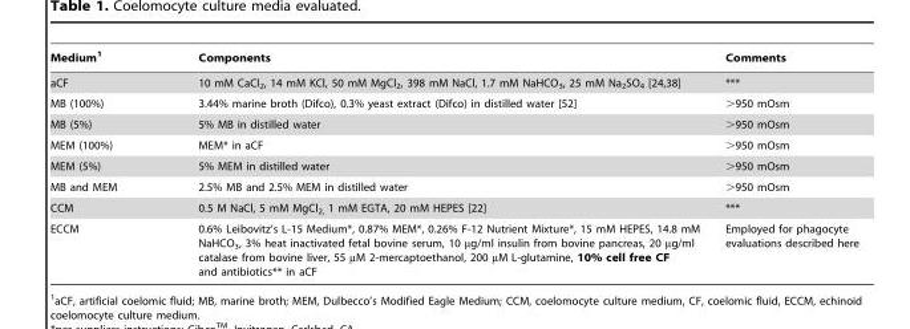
<table><thead><tr><td>Medium<sup>1</sup></td><td>Components</td><td>Comments</td></tr></thead><tbody><tr><td>aCF</td><td>10 mM CaCl2, 14 mM KCl, 50 mM MgCl2, 398 mM NaCl, 1.7 mM NaHCO3, 25 mM Na2SO4 [24,38]</td><td>***</td></tr><tr><td>MB (100%)</td><td>3.44% marine broth (Difco), 0.3% yeast extract (Difco) in distilled water [52]</td><td>&gt;950 mOsm</td></tr><tr><td>MB (5%)</td><td>5% MB in distilled water</td><td>&gt;950 mOsm</td></tr><tr><td>MEM (100%)</td><td>MEM* in aCF</td><td>&gt;950 mOsm</td></tr><tr><td>MEM (5%)</td><td>5% MEM in distilled water</td><td>&gt;950 mOsm</td></tr><tr><td>MB and MEM</td><td>2.5% MB and 2.5% MEM in distilled water</td><td>&gt;950 mOsm</td></tr><tr><td>CCM</td><td>0.5 M NaCl, 5 mM MgCl<sub>2,</sub> 1 mM EGTA, 20 mM HEPES [22]</td><td>***</td></tr><tr><td>ECCM</td><td>0.6% Leibovitz’s L-15 Medium*, 0.87% MEM*, 0.26% F-12 Nutrient Mixture*, 15 mM HEPES, 14.8 mM NaHCO<sub>3</sub>, 3% heat inactivated fetal bovine serum, 10 µg/ml insulin from bovine pancreas, 20 µg/ml catalase from bovine liver, 55 µM 2-mercaptoethanol, 200 µM L-glutamine, 10% cell free CF and antibiotics** in aCF</td><td>Employed for phagocyte evaluations described here</td></tr></tbody></table>